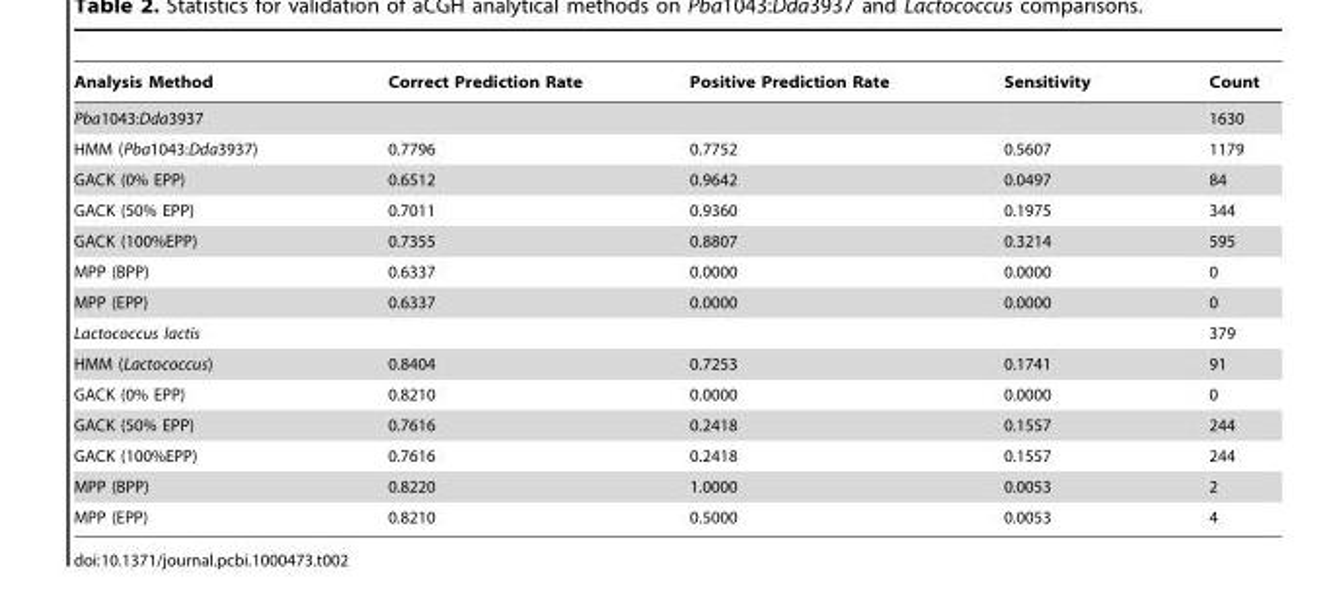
<table><thead><tr><td>Analysis Method</td><td>Correct Prediction Rate</td><td>Positive Prediction Rate</td><td>Sensitivity</td><td>Count</td></tr></thead><tbody><tr><td>Pba1043:Dda3937</td><td></td><td></td><td></td><td>1630</td></tr><tr><td>HMM (Pba1043:Dda3937)</td><td>0.7796</td><td>0.7752</td><td>0.5607</td><td>1179</td></tr><tr><td>GACK (0% EPP)</td><td>0.6512</td><td>0.9642</td><td>0.0497</td><td>84</td></tr><tr><td>GACK (50% EPP)</td><td>0.7011</td><td>0.9360</td><td>0.1975</td><td>344</td></tr><tr><td>GACK (100%EPP)</td><td>0.7355</td><td>0.8807</td><td>0.3214</td><td>595</td></tr><tr><td>MPP (BPP)</td><td>0.6337</td><td>0.0000</td><td>0.0000</td><td>0</td></tr><tr><td>MPP (EPP)</td><td>0.6337</td><td>0.0000</td><td>0.0000</td><td>0</td></tr><tr><td>Lactococcus lactis</td><td></td><td></td><td></td><td>379</td></tr><tr><td>HMM (Lactococcus)</td><td>0.8404</td><td>0.7253</td><td>0.1741</td><td>91</td></tr><tr><td>GACK (0% EPP)</td><td>0.8210</td><td>0.0000</td><td>0.0000</td><td>0</td></tr><tr><td>GACK (50% EPP)</td><td>0.7616</td><td>0.2418</td><td>0.1557</td><td>244</td></tr><tr><td>GACK (100%EPP)</td><td>0.7616</td><td>0.2418</td><td>0.1557</td><td>244</td></tr><tr><td>MPP (BPP)</td><td>0.8220</td><td>1.0000</td><td>0.0053</td><td>2</td></tr><tr><td>MPP (EPP)</td><td>0.8210</td><td>0.5000</td><td>0.0053</td><td>4</td></tr></tbody></table>